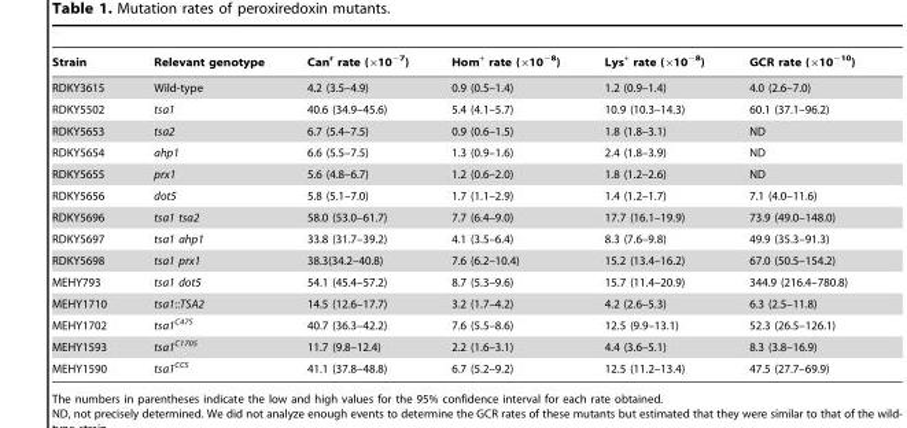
<table><thead><tr><td>Strain</td><td>Relevant genotype</td><td>Can<sup>r</sup> rate (×10<sup>−7</sup>)</td><td>Hom<sup>+</sup> rate (×10<sup>−8</sup>)</td><td>Lys<sup>+</sup> rate (×10<sup>−8</sup>)</td><td>GCR rate (×10<sup>−10</sup>)</td></tr></thead><tbody><tr><td>RDKY3615</td><td>Wild-type</td><td>4.2 (3.5–4.9)</td><td>0.9 (0.5–1.4)</td><td>1.2 (0.9–1.4)</td><td>4.0 (2.6–7.0)</td></tr><tr><td>RDKY5502</td><td>tsa1</td><td>40.6 (34.9–45.6)</td><td>5.4 (4.1–5.7)</td><td>10.9 (10.3–14.3)</td><td>60.1 (37.1–96.2)</td></tr><tr><td>RDKY5653</td><td>tsa2</td><td>6.7 (5.4–7.5)</td><td>0.9 (0.6–1.5)</td><td>1.8 (1.8–3.1)</td><td>ND</td></tr><tr><td>RDKY5654</td><td>ahp1</td><td>6.6 (5.5–7.5)</td><td>1.3 (0.9–1.6)</td><td>2.4 (1.8–3.9)</td><td>ND</td></tr><tr><td>RDKY5655</td><td>prx1</td><td>5.6 (4.8–6.7)</td><td>1.2 (0.6–2.0)</td><td>1.8 (1.2–2.6)</td><td>ND</td></tr><tr><td>RDKY5656</td><td>dot5</td><td>5.8 (5.1–7.0)</td><td>1.7 (1.1–2.9)</td><td>1.4 (1.2–1.7)</td><td>7.1 (4.0–11.6)</td></tr><tr><td>RDKY5696</td><td>tsa1 tsa2</td><td>58.0 (53.0–61.7)</td><td>7.7 (6.4–9.0)</td><td>17.7 (16.1–19.9)</td><td>73.9 (49.0–148.0)</td></tr><tr><td>RDKY5697</td><td>tsa1 ahp1</td><td>33.8 (31.7–39.2)</td><td>4.1 (3.5–6.4)</td><td>8.3 (7.6–9.8)</td><td>49.9 (35.3–91.3)</td></tr><tr><td>RDKY5698</td><td>tsa1 prx1</td><td>38.3(34.2–40.8)</td><td>7.6 (6.2–10.4)</td><td>15.2 (13.4–16.2)</td><td>67.0 (50.5–154.2)</td></tr><tr><td>MEHY793</td><td>tsa1 dot5</td><td>54.1 (45.4–57.2)</td><td>8.7 (5.3–9.6)</td><td>15.7 (11.4–20.9)</td><td>344.9 (216.4–780.8)</td></tr><tr><td>MEHY1710</td><td>tsa1::TSA2</td><td>14.5 (12.6–17.7)</td><td>3.2 (1.7–4.2)</td><td>4.2 (2.6–5.3)</td><td>6.3 (2.5–11.8)</td></tr><tr><td>MEHY1702</td><td>tsa1<sup>C47S</sup></td><td>40.7 (36.3–42.2)</td><td>7.6 (5.5–8.6)</td><td>12.5 (9.9–13.1)</td><td>52.3 (26.5–126.1)</td></tr><tr><td>MEHY1593</td><td>tsa1<sup>C170S</sup></td><td>11.7 (9.8–12.4)</td><td>2.2 (1.6–3.1)</td><td>4.4 (3.6–5.1)</td><td>8.3 (3.8–16.9)</td></tr><tr><td>MEHY1590</td><td>tsa1<sup>CCS</sup></td><td>41.1 (37.8–48.8)</td><td>6.7 (5.2–9.2)</td><td>12.5 (11.2–13.4)</td><td>47.5 (27.7–69.9)</td></tr></tbody></table>